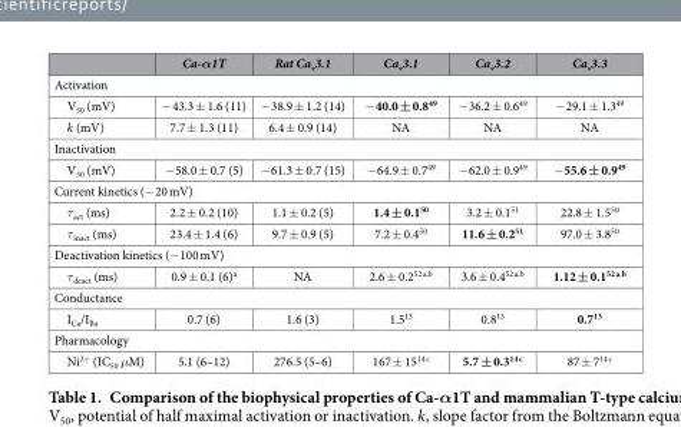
<table><thead><tr><td></td><td>Ca-α1T</td><td>Rat Ca<sub>v</sub>3.1</td><td>Ca<sub>v</sub>3.1</td><td>Ca<sub>v</sub>3.2</td><td>Ca<sub>v</sub>3.3</td></tr></thead><tbody><tr><td colspan="6">Activation</td></tr><tr><td>V<sub>50</sub> (mV)</td><td>− 43.3 ± 1.6 (11)</td><td>− 38.9 ± 1.2 (14)</td><td>− 40.0 ± 0.8<sup>49</sup></td><td>− 36.2 ± 0.6<sup>49</sup></td><td>− 29.1 ± 1.3<sup>49</sup></td></tr><tr><td>k (mV)</td><td>7.7 ± 1.3 (11)</td><td>6.4 ± 0.9 (14)</td><td>NA</td><td>NA</td><td>NA</td></tr><tr><td colspan="6">Inactivation</td></tr><tr><td>V<sub>50</sub> (mV)</td><td>− 58.0 ± 0.7 (5)</td><td>− 61.3 ± 0.7 (15)</td><td>− 64.9 ± 0.7<sup>49</sup></td><td>− 62.0 ± 0.9<sup>49</sup></td><td>− 55.6 ± 0.9<sup>49</sup></td></tr><tr><td colspan="6">Current kinetics (− 20 mV)</td></tr><tr><td>τ<sub>act</sub> (ms)</td><td>2.2 ± 0.2 (10)</td><td>1.1 ± 0.2 (5)</td><td>1.4 ± 0.1<sup>50</sup></td><td>3.2 ± 0.1<sup>51</sup></td><td>22.8 ± 1.5<sup>50</sup></td></tr><tr><td>τ<sub>inact</sub> (ms)</td><td>23.4 ± 1.4 (6)</td><td>9.7 ± 0.9 (5)</td><td>7.2 ± 0.4<sup>50</sup></td><td>11.6 ± 0.2<sup>51</sup></td><td>97.0 ± 3.8<sup>50</sup></td></tr><tr><td colspan="6">Deactivation kinetics (− 100 mV)</td></tr><tr><td>τ<sub>deact</sub> (ms)</td><td>0.9 ± 0.1 (6)<sup>a</sup></td><td>NA</td><td>2.6 ± 0.2<sup>52</sup> a,b</td><td>3.6 ± 0.4<sup>52</sup> a,b</td><td>1.12 ± 0.1<sup>52</sup> a,b</td></tr><tr><td colspan="6">Conductance</td></tr><tr><td>I<sub>Ca</sub>/I<sub>Ba</sub></td><td>0.7 (6)</td><td>1.6 (3)</td><td>1.5<sup>13</sup></td><td>0.8<sup>13</sup></td><td>0.7<sup>13</sup></td></tr><tr><td colspan="6">Pharmacology</td></tr><tr><td>Ni<sup>2+</sup> (IC<sub>50</sub> μM)</td><td>5.1 (6–12)</td><td>276.5 (5–6)</td><td>167 ± 15<sup>14</sup> c</td><td>5.7 ± 0.3<sup>14</sup> c</td><td>87 ± 7<sup>14</sup> c</td></tr></tbody></table>